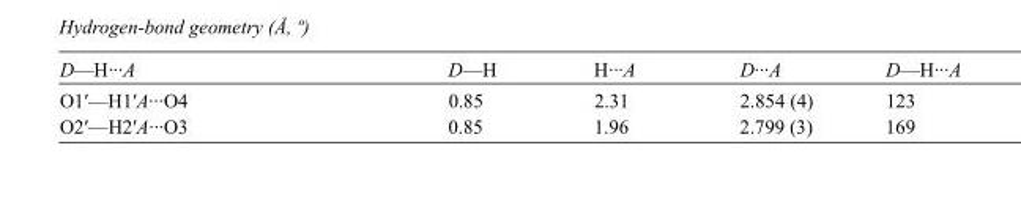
<table><tbody><tr><td>D—H···A</td><td>D—H</td><td>H···A</td><td>D···A</td><td>D—H···A</td></tr><tr><td>O1′—H1′A···O4</td><td>0.85</td><td>2.31</td><td>2.854 (4)</td><td>123</td></tr><tr><td>O2′—H2′A···O3</td><td>0.85</td><td>1.96</td><td>2.799 (3)</td><td>169</td></tr></tbody></table>